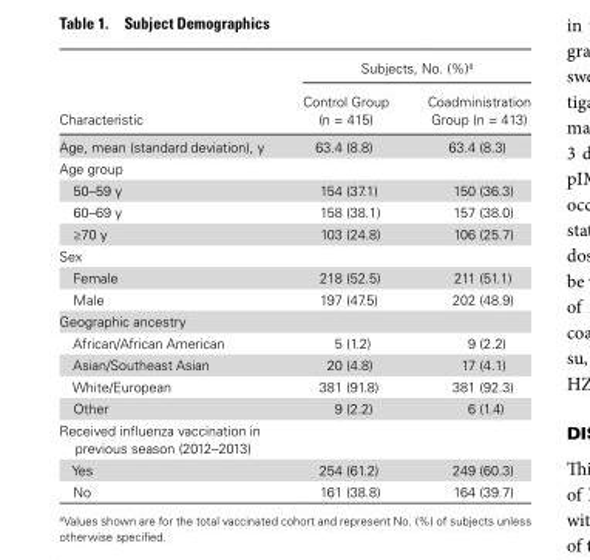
<table><thead><tr><td rowspan="2">Characteristic</td><td colspan="2">Subjects, No. (%)<sup>a</sup></td></tr><tr><td>Control Group (n = 415)</td><td>Coadministration Group (n = 413)</td></tr></thead><tbody><tr><td>Age, mean (standard deviation), y</td><td>63.4 (8.8)</td><td>63.4 (8.3)</td></tr><tr><td colspan="3">Age group</td></tr><tr><td>50–59 y</td><td>154 (37.1)</td><td>150 (36.3)</td></tr><tr><td>60–69 y</td><td>158 (38.1)</td><td>157 (38.0)</td></tr><tr><td>≥70 y</td><td>103 (24.8)</td><td>106 (25.7)</td></tr><tr><td colspan="3">Sex</td></tr><tr><td>Female</td><td>218 (52.5)</td><td>211 (51.1)</td></tr><tr><td>Male</td><td>197 (47.5)</td><td>202 (48.9)</td></tr><tr><td colspan="3">Geographic ancestry</td></tr><tr><td>African/African American</td><td>5 (1.2)</td><td>9 (2.2)</td></tr><tr><td>Asian/Southeast Asian</td><td>20 (4.8)</td><td>17 (4.1)</td></tr><tr><td>White/European</td><td>381 (91.8)</td><td>381 (92.3)</td></tr><tr><td>Other</td><td>9 (2.2)</td><td>6 (1.4)</td></tr><tr><td colspan="3">Received influenza vaccination in previous season (2012–2013)</td></tr><tr><td>Yes</td><td>254 (61.2)</td><td>249 (60.3)</td></tr><tr><td>No</td><td>161 (38.8)</td><td>164 (39.7)</td></tr></tbody></table>